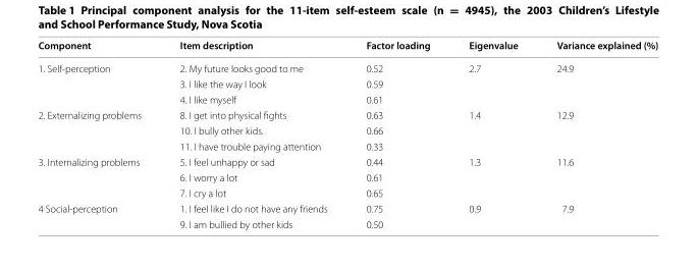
<table><thead><tr><td>Component</td><td>Item description</td><td>Factor loading</td><td>Eigenvalue</td><td>Variance explained (%)</td></tr></thead><tbody><tr><td rowspan="3">1. Self-perception</td><td>2. My future looks good to me</td><td>0.52</td><td>2.7</td><td>24.9</td></tr><tr><td>3. I like the way I look</td><td>0.59</td><td></td><td></td></tr><tr><td>4. I like myself</td><td>0.61</td><td></td><td></td></tr><tr><td rowspan="3">2. Externalizing problems</td><td>8. I get into physical fights</td><td>0.63</td><td>1.4</td><td>12.9</td></tr><tr><td>10. I bully other kids.</td><td>0.66</td><td></td><td></td></tr><tr><td>11. I have trouble paying attention</td><td>0.33</td><td></td><td></td></tr><tr><td rowspan="3">3. Internalizing problems</td><td>5. I feel unhappy or sad</td><td>0.44</td><td>1.3</td><td>11.6</td></tr><tr><td>6. I worry a lot</td><td>0.61</td><td></td><td></td></tr><tr><td>7. I cry a lot</td><td>0.65</td><td></td><td></td></tr><tr><td rowspan="2">4 Social-perception</td><td>1. I feel like I do not have any friends</td><td>0.75</td><td>0.9</td><td>7.9</td></tr><tr><td>9. I am bullied by other kids</td><td>0.50</td><td></td><td></td></tr></tbody></table>